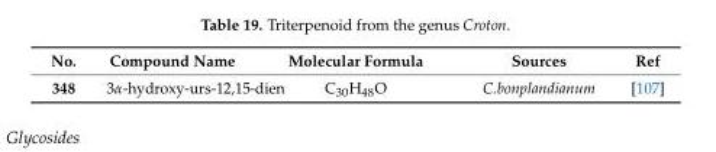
<table><thead><tr><td>No.</td><td>Compound Name</td><td>Molecular Formula</td><td>Sources</td><td>Ref</td></tr></thead><tbody><tr><td>348</td><td>3α-hydroxy-urs-12,15-dien</td><td>C<sub>30</sub>H<sub>48</sub>O</td><td>C.bonplandianum</td><td>[107]</td></tr></tbody></table>